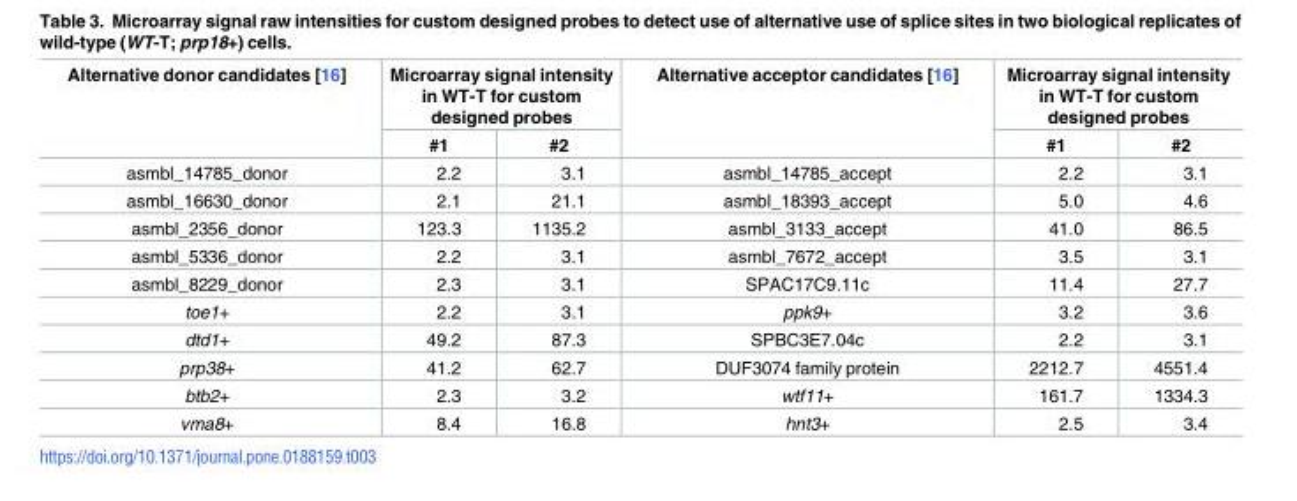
<table><thead><tr><td rowspan="2">Alternative donor candidates [16]</td><td colspan="2">Microarray signal intensity in WT-T for custom designed probes</td><td rowspan="2">Alternative acceptor candidates [16]</td><td colspan="2">Microarray signal intensity in WT-T for custom designed probes</td></tr><tr><td>#1</td><td>#2</td><td>#1</td><td>#2</td></tr></thead><tbody><tr><td>asmbl_14785_donor</td><td>2.2</td><td>3.1</td><td>asmbl_14785_accept</td><td>2.2</td><td>3.1</td></tr><tr><td>asmbl_16630_donor</td><td>2.1</td><td>21.1</td><td>asmbl_18393_accept</td><td>5.0</td><td>4.6</td></tr><tr><td>asmbl_2356_donor</td><td>123.3</td><td>1135.2</td><td>asmbl_3133_accept</td><td>41.0</td><td>86.5</td></tr><tr><td>asmbl_5336_donor</td><td>2.2</td><td>3.1</td><td>asmbl_7672_accept</td><td>3.5</td><td>3.1</td></tr><tr><td>asmbl_8229_donor</td><td>2.3</td><td>3.1</td><td>SPAC17C9.11c</td><td>11.4</td><td>27.7</td></tr><tr><td>toe1+</td><td>2.2</td><td>3.1</td><td>ppk9+</td><td>3.2</td><td>3.6</td></tr><tr><td>dtd1+</td><td>49.2</td><td>87.3</td><td>SPBC3E7.04c</td><td>2.2</td><td>3.1</td></tr><tr><td>prp38+</td><td>41.2</td><td>62.7</td><td>DUF3074 family protein</td><td>2212.7</td><td>4551.4</td></tr><tr><td>btb2+</td><td>2.3</td><td>3.2</td><td>wtf11+</td><td>161.7</td><td>1334.3</td></tr><tr><td>vma8+</td><td>8.4</td><td>16.8</td><td>hnt3+</td><td>2.5</td><td>3.4</td></tr></tbody></table>